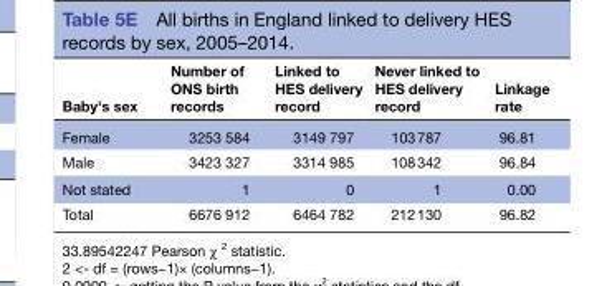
<table><thead><tr><td>Baby&#x27;s sex</td><td>Number of ONS birth records</td><td>Linked to HES delivery record</td><td>Never linked to HES delivery record</td><td>Linkage rate</td></tr></thead><tbody><tr><td>Female</td><td>3253 584</td><td>3149 797</td><td>103 787</td><td>96.81</td></tr><tr><td>Male</td><td>3423 327</td><td>3314 985</td><td>108 342</td><td>96.84</td></tr><tr><td>Not stated</td><td>1</td><td>0</td><td>1</td><td>0.00</td></tr><tr><td>Total</td><td>6676 912</td><td>6464 782</td><td>212 130</td><td>96.82</td></tr></tbody></table>